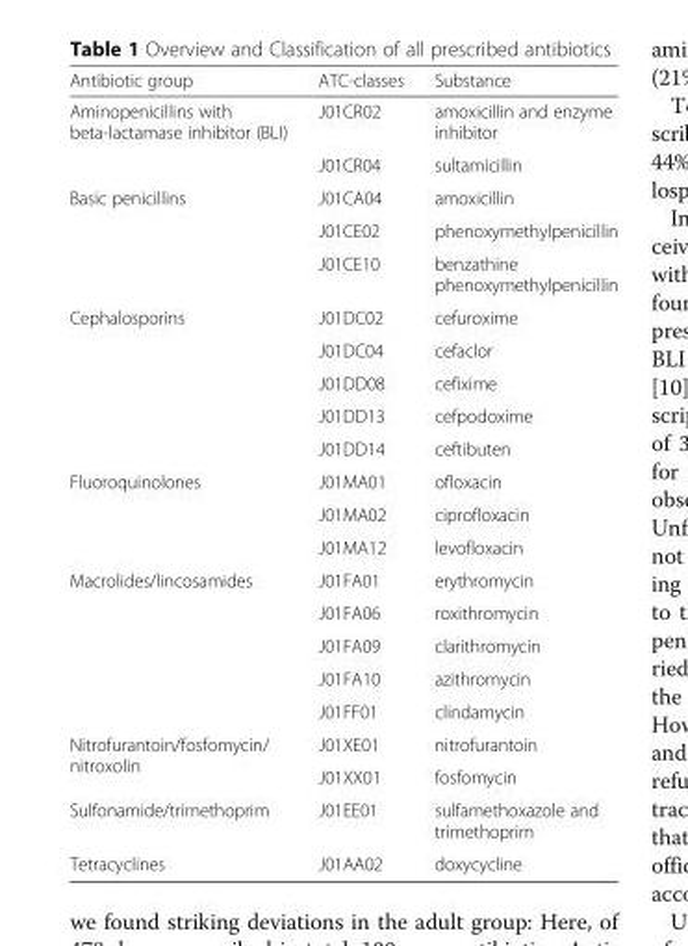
<table><thead><tr><td>Antibiotic group</td><td>ATC-classes</td><td>Substance</td></tr></thead><tbody><tr><td rowspan="2">Aminopenicillins with beta-lactamase inhibitor (BLI)</td><td>J01CR02</td><td>amoxicillin and enzyme inhibitor</td></tr><tr><td>J01CR04</td><td>sultamicillin</td></tr><tr><td rowspan="3">Basic penicillins</td><td>J01CA04</td><td>amoxicillin</td></tr><tr><td>J01CE02</td><td>phenoxymethylpenicillin</td></tr><tr><td>J01CE10</td><td>benzathine phenoxymethylpenicillin</td></tr><tr><td rowspan="5">Cephalosporins</td><td>J01DC02</td><td>cefuroxime</td></tr><tr><td>J01DC04</td><td>cefaclor</td></tr><tr><td>J01DD08</td><td>cefixime</td></tr><tr><td>J01DD13</td><td>cefpodoxime</td></tr><tr><td>J01DD14</td><td>ceftibuten</td></tr><tr><td rowspan="3">Fluoroquinolones</td><td>J01MA01</td><td>ofloxacin</td></tr><tr><td>J01MA02</td><td>ciprofloxacin</td></tr><tr><td>J01MA12</td><td>levofloxacin</td></tr><tr><td rowspan="5">Macrolides/lincosamides</td><td>J01FA01</td><td>erythromycin</td></tr><tr><td>J01FA06</td><td>roxithromycin</td></tr><tr><td>J01FA09</td><td>clarithromycin</td></tr><tr><td>J01FA10</td><td>azithromycin</td></tr><tr><td>J01FF01</td><td>clindamycin</td></tr><tr><td rowspan="2">Nitrofurantoin/fosfomycin/ nitroxolin</td><td>J01XE01</td><td>nitrofurantoin</td></tr><tr><td>J01XX01</td><td>fosfomycin</td></tr><tr><td>Sulfonamide/trimethoprim</td><td>J01EE01</td><td>sulfamethoxazole and trimethoprim</td></tr><tr><td>Tetracyclines</td><td>J01AA02</td><td>doxycycline</td></tr></tbody></table>